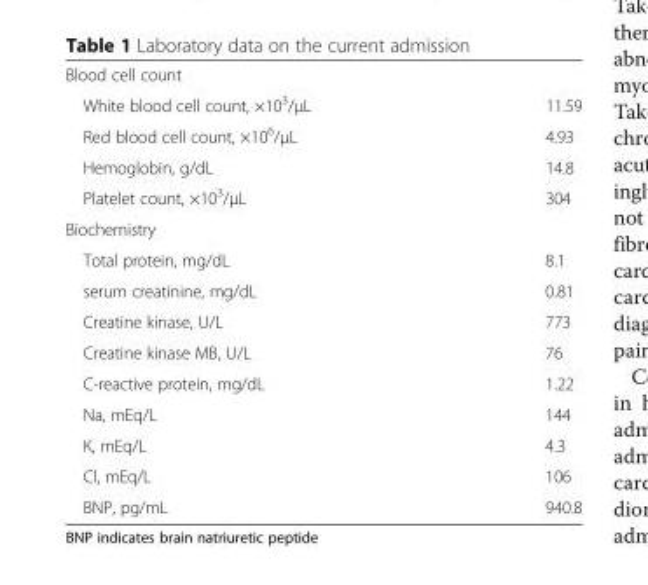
<table><tbody><tr><td colspan="2">Blood cell count</td></tr><tr><td>White blood cell count, ×10<sup>3</sup>/μL</td><td>11.59</td></tr><tr><td>Red blood cell count, ×10<sup>6</sup>/μL</td><td>4.93</td></tr><tr><td>Hemoglobin, g/dL</td><td>14.8</td></tr><tr><td>Platelet count, ×10<sup>3</sup>/μL</td><td>304</td></tr><tr><td colspan="2">Biochemistry</td></tr><tr><td>Total protein, mg/dL</td><td>8.1</td></tr><tr><td>serum creatinine, mg/dL</td><td>0.81</td></tr><tr><td>Creatine kinase, U/L</td><td>773</td></tr><tr><td>Creatine kinase MB, U/L</td><td>76</td></tr><tr><td>C-reactive protein, mg/dL</td><td>1.22</td></tr><tr><td>Na, mEq/L</td><td>144</td></tr><tr><td>K, mEq/L</td><td>4.3</td></tr><tr><td>Cl, mEq/L</td><td>106</td></tr><tr><td>BNP, pg/mL</td><td>940.8</td></tr></tbody></table>